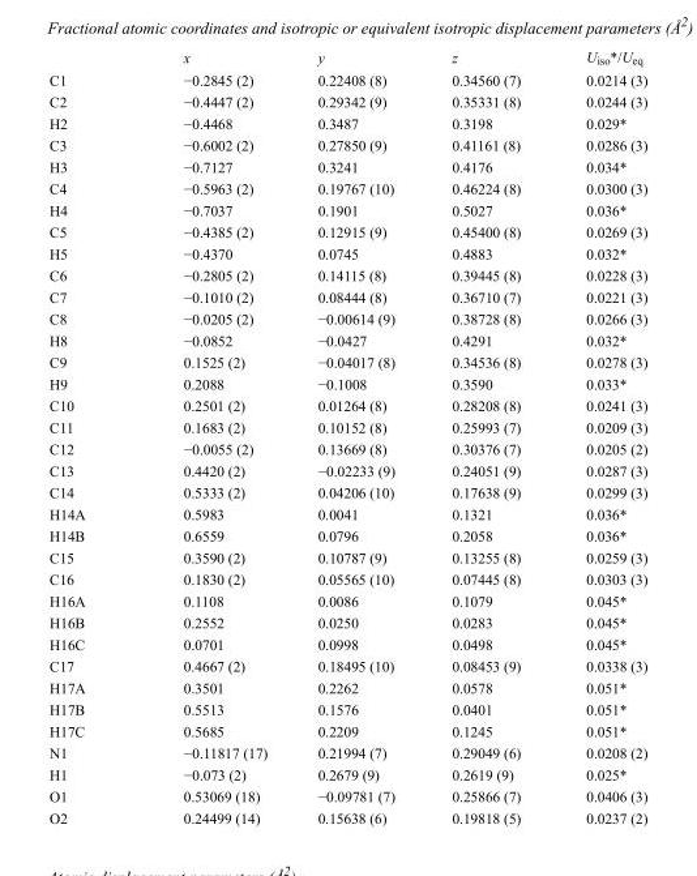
<table><thead><tr><td></td><td>x</td><td>y</td><td>z</td><td>U<sub>iso</sub>*/U<sub>eq</sub></td></tr></thead><tbody><tr><td>C1</td><td>−0.2845 (2)</td><td>0.22408 (8)</td><td>0.34560 (7)</td><td>0.0214 (3)</td></tr><tr><td>C2</td><td>−0.4447 (2)</td><td>0.29342 (9)</td><td>0.35331 (8)</td><td>0.0244 (3)</td></tr><tr><td>H2</td><td>−0.4468</td><td>0.3487</td><td>0.3198</td><td>0.029*</td></tr><tr><td>C3</td><td>−0.6002 (2)</td><td>0.27850 (9)</td><td>0.41161 (8)</td><td>0.0286 (3)</td></tr><tr><td>H3</td><td>−0.7127</td><td>0.3241</td><td>0.4176</td><td>0.034*</td></tr><tr><td>C4</td><td>−0.5963 (2)</td><td>0.19767 (10)</td><td>0.46224 (8)</td><td>0.0300 (3)</td></tr><tr><td>H4</td><td>−0.7037</td><td>0.1901</td><td>0.5027</td><td>0.036*</td></tr><tr><td>C5</td><td>−0.4385 (2)</td><td>0.12915 (9)</td><td>0.45400 (8)</td><td>0.0269 (3)</td></tr><tr><td>H5</td><td>−0.4370</td><td>0.0745</td><td>0.4883</td><td>0.032*</td></tr><tr><td>C6</td><td>−0.2805 (2)</td><td>0.14115 (8)</td><td>0.39445 (8)</td><td>0.0228 (3)</td></tr><tr><td>C7</td><td>−0.1010 (2)</td><td>0.08444 (8)</td><td>0.36710 (7)</td><td>0.0221 (3)</td></tr><tr><td>C8</td><td>−0.0205 (2)</td><td>−0.00614 (9)</td><td>0.38728 (8)</td><td>0.0266 (3)</td></tr><tr><td>H8</td><td>−0.0852</td><td>−0.0427</td><td>0.4291</td><td>0.032*</td></tr><tr><td>C9</td><td>0.1525 (2)</td><td>−0.04017 (8)</td><td>0.34536 (8)</td><td>0.0278 (3)</td></tr><tr><td>H9</td><td>0.2088</td><td>−0.1008</td><td>0.3590</td><td>0.033*</td></tr><tr><td>C10</td><td>0.2501 (2)</td><td>0.01264 (8)</td><td>0.28208 (8)</td><td>0.0241 (3)</td></tr><tr><td>C11</td><td>0.1683 (2)</td><td>0.10152 (8)</td><td>0.25993 (7)</td><td>0.0209 (3)</td></tr><tr><td>C12</td><td>−0.0055 (2)</td><td>0.13669 (8)</td><td>0.30376 (7)</td><td>0.0205 (2)</td></tr><tr><td>C13</td><td>0.4420 (2)</td><td>−0.02233 (9)</td><td>0.24051 (9)</td><td>0.0287 (3)</td></tr><tr><td>C14</td><td>0.5333 (2)</td><td>0.04206 (10)</td><td>0.17638 (9)</td><td>0.0299 (3)</td></tr><tr><td>H14A</td><td>0.5983</td><td>0.0041</td><td>0.1321</td><td>0.036*</td></tr><tr><td>H14B</td><td>0.6559</td><td>0.0796</td><td>0.2058</td><td>0.036*</td></tr><tr><td>C15</td><td>0.3590 (2)</td><td>0.10787 (9)</td><td>0.13255 (8)</td><td>0.0259 (3)</td></tr><tr><td>C16</td><td>0.1830 (2)</td><td>0.05565 (10)</td><td>0.07445 (8)</td><td>0.0303 (3)</td></tr><tr><td>H16A</td><td>0.1108</td><td>0.0086</td><td>0.1079</td><td>0.045*</td></tr><tr><td>H16B</td><td>0.2552</td><td>0.0250</td><td>0.0283</td><td>0.045*</td></tr><tr><td>H16C</td><td>0.0701</td><td>0.0998</td><td>0.0498</td><td>0.045*</td></tr><tr><td>C17</td><td>0.4667 (2)</td><td>0.18495 (10)</td><td>0.08453 (9)</td><td>0.0338 (3)</td></tr><tr><td>H17A</td><td>0.3501</td><td>0.2262</td><td>0.0578</td><td>0.051*</td></tr><tr><td>H17B</td><td>0.5513</td><td>0.1576</td><td>0.0401</td><td>0.051*</td></tr><tr><td>H17C</td><td>0.5685</td><td>0.2209</td><td>0.1245</td><td>0.051*</td></tr><tr><td>N1</td><td>−0.11817 (17)</td><td>0.21994 (7)</td><td>0.29049 (6)</td><td>0.0208 (2)</td></tr><tr><td>H1</td><td>−0.073 (2)</td><td>0.2679 (9)</td><td>0.2619 (9)</td><td>0.025*</td></tr><tr><td>O1</td><td>0.53069 (18)</td><td>−0.09781 (7)</td><td>0.25866 (7)</td><td>0.0406 (3)</td></tr><tr><td>O2</td><td>0.24499 (14)</td><td>0.15638 (6)</td><td>0.19818 (5)</td><td>0.0237 (2)</td></tr></tbody></table>